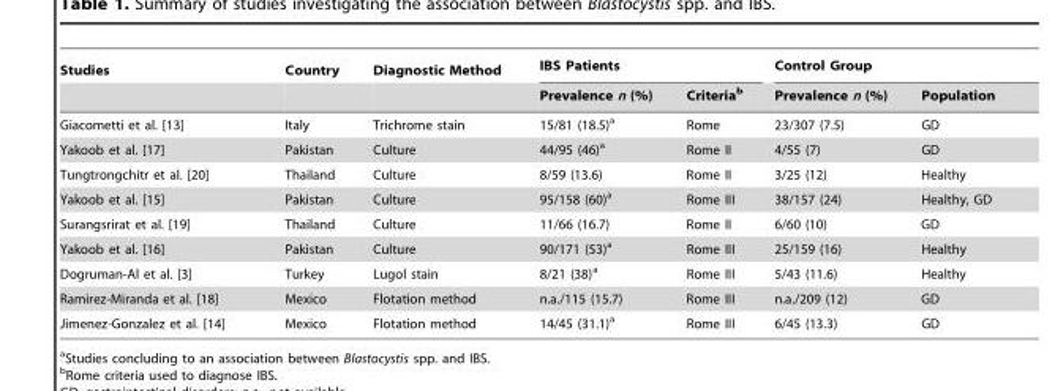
<table><thead><tr><td rowspan="2">Studies</td><td rowspan="2">Country</td><td rowspan="2">Diagnostic Method</td><td colspan="2">IBS Patients</td><td colspan="2">Control Group</td></tr><tr><td>Prevalence n (%)</td><td>Criteria<sup>b</sup></td><td>Prevalence n (%)</td><td>Population</td></tr></thead><tbody><tr><td>Giacometti et al. [13]</td><td>Italy</td><td>Trichrome stain</td><td>15/81 (18.5)<sup>a</sup></td><td>Rome</td><td>23/307 (7.5)</td><td>GD</td></tr><tr><td>Yakoob et al. [17]</td><td>Pakistan</td><td>Culture</td><td>44/95 (46)<sup>a</sup></td><td>Rome II</td><td>4/55 (7)</td><td>GD</td></tr><tr><td>Tungtrongchitr et al. [20]</td><td>Thailand</td><td>Culture</td><td>8/59 (13.6)</td><td>Rome II</td><td>3/25 (12)</td><td>Healthy</td></tr><tr><td>Yakoob et al. [15]</td><td>Pakistan</td><td>Culture</td><td>95/158 (60)<sup>a</sup></td><td>Rome III</td><td>38/157 (24)</td><td>Healthy, GD</td></tr><tr><td>Surangsrirat et al. [19]</td><td>Thailand</td><td>Culture</td><td>11/66 (16.7)</td><td>Rome II</td><td>6/60 (10)</td><td>GD</td></tr><tr><td>Yakoob et al. [16]</td><td>Pakistan</td><td>Culture</td><td>90/171 (53)<sup>a</sup></td><td>Rome III</td><td>25/159 (16)</td><td>Healthy</td></tr><tr><td>Dogruman-Al et al. [3]</td><td>Turkey</td><td>Lugol stain</td><td>8/21 (38)<sup>a</sup></td><td>Rome III</td><td>5/43 (11.6)</td><td>Healthy</td></tr><tr><td>Ramirez-Miranda et al. [18]</td><td>Mexico</td><td>Flotation method</td><td>n.a./115 (15.7)</td><td>Rome III</td><td>n.a./209 (12)</td><td>GD</td></tr><tr><td>Jimenez-Gonzalez et al. [14]</td><td>Mexico</td><td>Flotation method</td><td>14/45 (31.1)<sup>a</sup></td><td>Rome III</td><td>6/45 (13.3)</td><td>GD</td></tr></tbody></table>